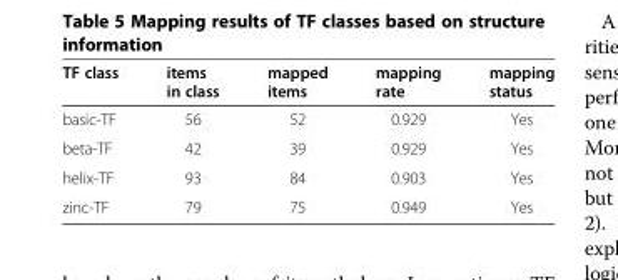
<table><thead><tr><td>TF class</td><td>items in class</td><td>mapped items</td><td>mapping rate</td><td>mapping status</td></tr></thead><tbody><tr><td>basic-TF</td><td>56</td><td>52</td><td>0.929</td><td>Yes</td></tr><tr><td>beta-TF</td><td>42</td><td>39</td><td>0.929</td><td>Yes</td></tr><tr><td>helix-TF</td><td>93</td><td>84</td><td>0.903</td><td>Yes</td></tr><tr><td>zinc-TF</td><td>79</td><td>75</td><td>0.949</td><td>Yes</td></tr></tbody></table>